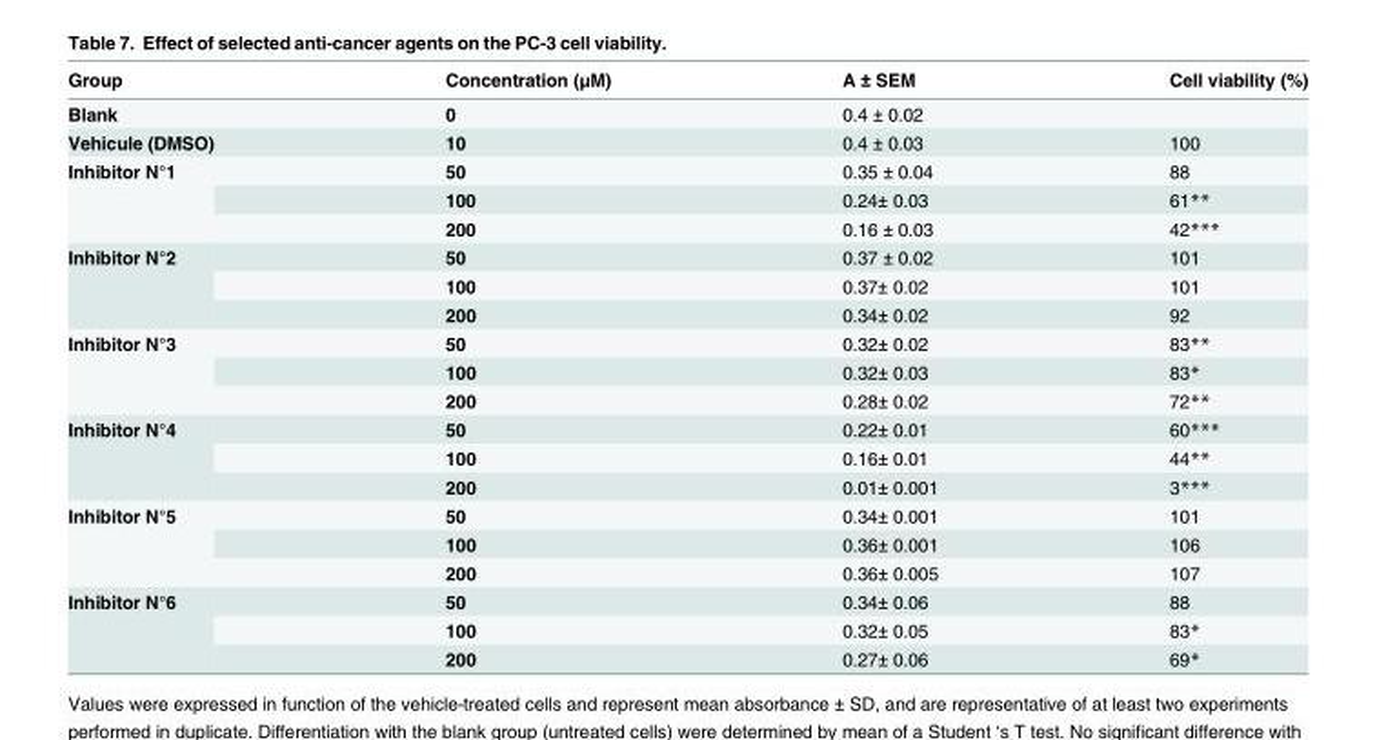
<table><thead><tr><td>Group</td><td>Concentration (μM)</td><td>A ± SEM</td><td>Cell viability (%)</td></tr></thead><tbody><tr><td>Blank</td><td>0</td><td>0.4 ± 0.02</td><td></td></tr><tr><td>Vehicule (DMSO)</td><td>10</td><td>0.4 ± 0.03</td><td>100</td></tr><tr><td rowspan="3">Inhibitor N°1</td><td>50</td><td>0.35 ± 0.04</td><td>88</td></tr><tr><td>100</td><td>0.24± 0.03</td><td>61**</td></tr><tr><td>200</td><td>0.16 ± 0.03</td><td>42***</td></tr><tr><td rowspan="3">Inhibitor N°2</td><td>50</td><td>0.37 ± 0.02</td><td>101</td></tr><tr><td>100</td><td>0.37± 0.02</td><td>101</td></tr><tr><td>200</td><td>0.34± 0.02</td><td>92</td></tr><tr><td rowspan="3">Inhibitor N°3</td><td>50</td><td>0.32± 0.02</td><td>83**</td></tr><tr><td>100</td><td>0.32± 0.03</td><td>83*</td></tr><tr><td>200</td><td>0.28± 0.02</td><td>72**</td></tr><tr><td rowspan="3">Inhibitor N°4</td><td>50</td><td>0.22± 0.01</td><td>60***</td></tr><tr><td>100</td><td>0.16± 0.01</td><td>44**</td></tr><tr><td>200</td><td>0.01± 0.001</td><td>3***</td></tr><tr><td rowspan="3">Inhibitor N°5</td><td>50</td><td>0.34± 0.001</td><td>101</td></tr><tr><td>100</td><td>0.36± 0.001</td><td>106</td></tr><tr><td>200</td><td>0.36± 0.005</td><td>107</td></tr><tr><td rowspan="3">Inhibitor N°6</td><td>50</td><td>0.34± 0.06</td><td>88</td></tr><tr><td>100</td><td>0.32± 0.05</td><td>83*</td></tr><tr><td>200</td><td>0.27± 0.06</td><td>69*</td></tr></tbody></table>